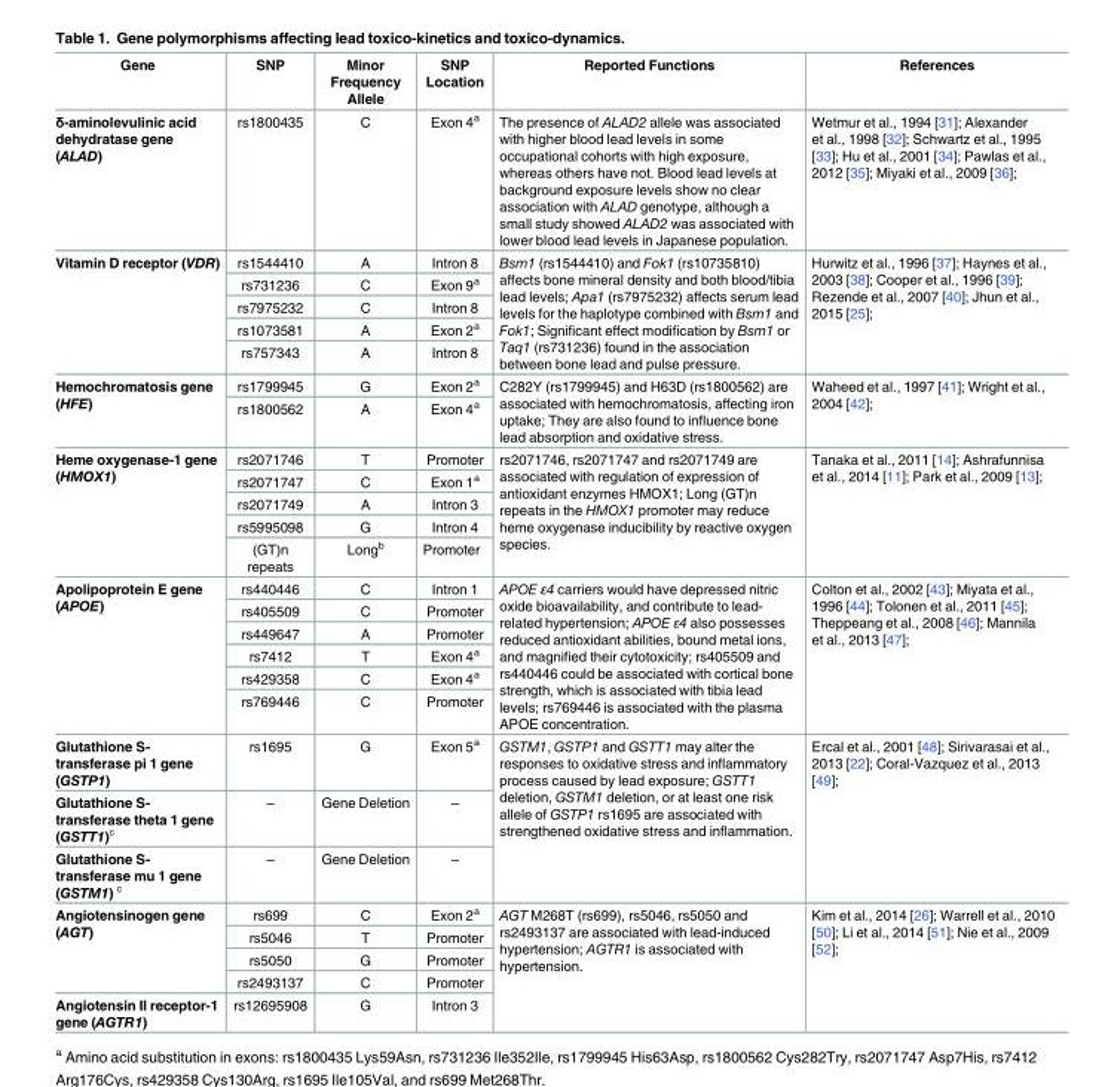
<table><thead><tr><td>Gene</td><td>SNP</td><td>Minor Frequency Allele</td><td>SNP Location</td><td>Reported Functions</td><td>References</td></tr></thead><tbody><tr><td>δ-aminolevulinic acid dehydratase gene (ALAD)</td><td>rs1800435</td><td>C</td><td>Exon 4<sup>a</sup></td><td>The presence of ALAD2 allele was associated with higher blood lead levels in some occupational cohorts with high exposure, whereas others have not. Blood lead levels at background exposure levels show no clear association with ALAD genotype, although a small study showed ALAD2 was associated with lower blood lead levels in Japanese population.</td><td>Wetmur et al., 1994 [31]; Alexander et al., 1998 [32]; Schwartz et al., 1995 [33]; Hu et al., 2001 [34]; Pawlas et al., 2012 [35]; Miyaki et al., 2009 [36];</td></tr><tr><td rowspan="5">Vitamin D receptor (VDR)</td><td>rs1544410</td><td>A</td><td>Intron 8</td><td rowspan="5">Bsm1 (rs1544410) and Fok1 (rs10735810) affects bone mineral density and both blood/tibia lead levels; Apa1 (rs7975232) affects serum lead levels for the haplotype combined with Bsm1 and Fok1; Significant effect modification by Bsm1 or Taq1 (rs731236) found in the association between bone lead and pulse pressure.</td><td rowspan="5">Hurwitz et al., 1996 [37]; Haynes et al., 2003 [38]; Cooper et al., 1996 [39]; Rezende et al., 2007 [40]; Jhun et al., 2015 [25];</td></tr><tr><td>rs731236</td><td>C</td><td>Exon 9<sup>a</sup></td></tr><tr><td>rs7975232</td><td>C</td><td>Intron 8</td></tr><tr><td>rs1073581</td><td>A</td><td>Exon 2<sup>a</sup></td></tr><tr><td>rs757343</td><td>A</td><td>Intron 8</td></tr><tr><td rowspan="2">Hemochromatosis gene (HFE)</td><td>rs1799945</td><td>G</td><td>Exon 2<sup>a</sup></td><td rowspan="2">C282Y (rs1799945) and H63D (rs1800562) are associated with hemochromatosis, affecting iron uptake; They are also found to influence bone lead absorption and oxidative stress.</td><td rowspan="2">Waheed et al., 1997 [41]; Wright et al., 2004 [42];</td></tr><tr><td>rs1800562</td><td>A</td><td>Exon 4<sup>a</sup></td></tr><tr><td rowspan="5">Heme oxygenase-1 gene (HMOX1)</td><td>rs2071746</td><td>T</td><td>Promoter</td><td rowspan="5">rs2071746, rs2071747 and rs2071749 are associated with regulation of expression of antioxidant enzymes HMOX1; Long (GT)n repeats in the HMOX1 promoter may reduce heme oxygenase inducibility by reactive oxygen species.</td><td rowspan="5">Tanaka et al., 2011 [14]; Ashrafunnisa et al., 2014 [11]; Park et al., 2009 [13];</td></tr><tr><td>rs2071747</td><td>C</td><td>Exon 1<sup>a</sup></td></tr><tr><td>rs2071749</td><td>A</td><td>Intron 3</td></tr><tr><td>rs5995098</td><td>G</td><td>Intron 4</td></tr><tr><td>(GT)n repeats</td><td>Long<sup>b</sup></td><td>Promoter</td></tr><tr><td rowspan="6">Apolipoprotein E gene (APOE)</td><td>rs440446</td><td>C</td><td>Intron 1</td><td rowspan="6">APOE ε4 carriers would have depressed nitric oxide bioavailability, and contribute to lead- related hypertension; APOE ε4 also possesses reduced antioxidant abilities, bound metal ions, and magnified their cytotoxicity; rs405509 and rs440446 could be associated with cortical bone strength, which is associated with tibia lead levels; rs769446 is associated with the plasma APOE concentration.</td><td rowspan="6">Colton et al., 2002 [43]; Miyata et al., 1996 [44]; Tolonen et al., 2011 [45]; Theppeang et al., 2008 [46]; Mannila et al., 2013 [47];</td></tr><tr><td>rs405509</td><td>C</td><td>Promoter</td></tr><tr><td>rs449647</td><td>A</td><td>Promoter</td></tr><tr><td>rs7412</td><td>T</td><td>Exon 4<sup>a</sup></td></tr><tr><td>rs429358</td><td>C</td><td>Exon 4<sup>a</sup></td></tr><tr><td>rs769446</td><td>C</td><td>Promoter</td></tr><tr><td>Glutathione S- transferase pi 1 gene (GSTP1)</td><td>rs1695</td><td>G</td><td>Exon 5<sup>a</sup></td><td rowspan="3">GSTM1, GSTP1 and GSTT1 may alter the responses to oxidative stress and inflammatory process caused by lead exposure; GSTT1 deletion, GSTM1 deletion, or at least one risk allele of GSTP1 rs1695 are associated with strengthened oxidative stress and inflammation.</td><td rowspan="3">Ercal et al., 2001 [48]; Sirivarasai et al., 2013 [22]; Coral-Vazquez et al., 2013 [49];</td></tr><tr><td>Glutathione S- transferase theta 1 gene (GSTT1)<sup>c</sup></td><td>–</td><td>Gene Deletion</td><td>–</td></tr><tr><td>Glutathione S- transferase mu 1 gene (GSTM1) <sup>c</sup></td><td>–</td><td>Gene Deletion</td><td>–</td></tr><tr><td rowspan="4">Angiotensinogen gene (AGT)</td><td>rs699</td><td>C</td><td>Exon 2<sup>a</sup></td><td rowspan="5">AGT M268T (rs699), rs5046, rs5050 and rs2493137 are associated with lead-induced hypertension; AGTR1 is associated with hypertension.</td><td rowspan="5">Kim et al., 2014 [26]; Warrell et al., 2010 [50]; Li et al., 2014 [51]; Nie et al., 2009 [52];</td></tr><tr><td>rs5046</td><td>T</td><td>Promoter</td></tr><tr><td>rs5050</td><td>G</td><td>Promoter</td></tr><tr><td>rs2493137</td><td>C</td><td>Promoter</td></tr><tr><td>Angiotensin II receptor-1 gene (AGTR1)</td><td>rs12695908</td><td>G</td><td>Intron 3</td></tr></tbody></table>